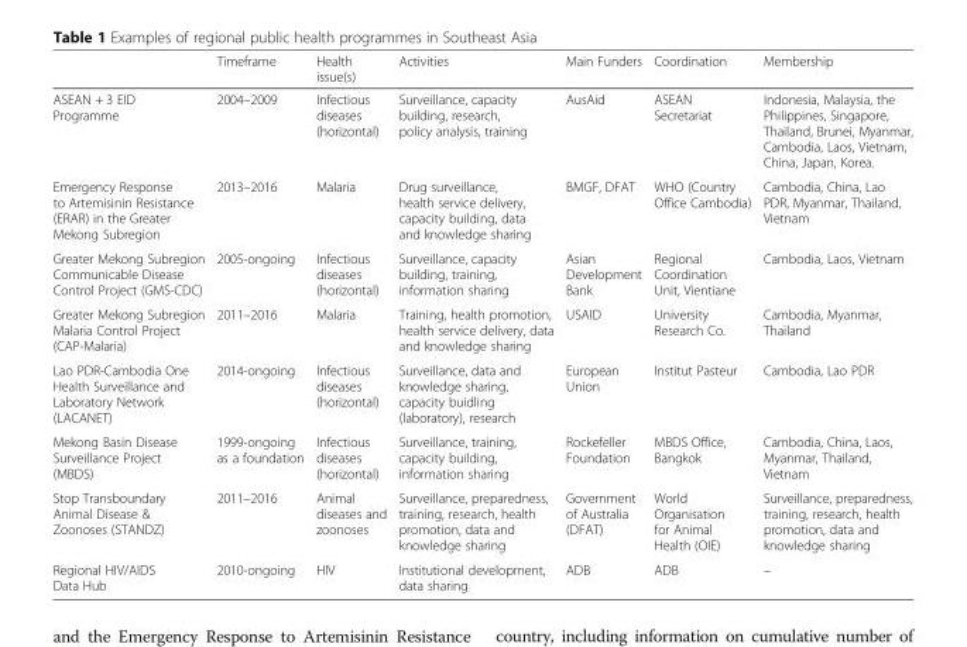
<table><thead><tr><td></td><td>Timeframe</td><td>Health issue(s)</td><td>Activities</td><td>Main Funders</td><td>Coordination</td><td>Membership</td></tr></thead><tbody><tr><td>ASEAN + 3 EID Programme</td><td>2004–2009</td><td>Infectious diseases (horizontal)</td><td>Surveillance, capacity building, research, policy analysis, training</td><td>AusAid</td><td>ASEAN Secretariat</td><td>Indonesia, Malaysia, the Philippines, Singapore, Thailand, Brunei, Myanmar, Cambodia, Laos, Vietnam, China, Japan, Korea.</td></tr><tr><td>Emergency Response to Artemisinin Resistance (ERAR) in the Greater Mekong Subregion</td><td>2013–2016</td><td>Malaria</td><td>Drug surveillance, health service delivery, capacity building, data and knowledge sharing</td><td>BMGF, DFAT</td><td>WHO (Country Office Cambodia)</td><td>Cambodia, China, Lao PDR, Myanmar, Thailand, Vietnam</td></tr><tr><td>Greater Mekong Subregion Communicable Disease Control Project (GMS-CDC)</td><td>2005-ongoing</td><td>Infectious diseases (horizontal)</td><td>Surveillance, capacity building, training, information sharing</td><td>Asian Development Bank</td><td>Regional Coordination Unit, Vientiane</td><td>Cambodia, Laos, Vietnam</td></tr><tr><td>Greater Mekong Subregion Malaria Control Project (CAP-Malaria)</td><td>2011–2016</td><td>Malaria</td><td>Training, health promotion, health service delivery, data and knowledge sharing</td><td>USAID</td><td>University Research Co.</td><td>Cambodia, Myanmar, Thailand</td></tr><tr><td>Lao PDR-Cambodia One Health Surveillance and Laboratory Network (LACANET)</td><td>2014-ongoing</td><td>Infectious diseases (horizontal)</td><td>Surveillance, data and knowledge sharing, capacity buidling (laboratory), research</td><td>European Union</td><td>Institut Pasteur</td><td>Cambodia, Lao PDR</td></tr><tr><td>Mekong Basin Disease Surveillance Project (MBDS)</td><td>1999-ongoing as a foundation</td><td>Infectious diseases (horizontal)</td><td>Surveillance, training, capacity building, information sharing</td><td>Rockefeller Foundation</td><td>MBDS Office, Bangkok</td><td>Cambodia, China, Laos, Myanmar, Thailand, Vietnam</td></tr><tr><td>Stop Transboundary Animal Disease &amp; Zoonoses (STANDZ)</td><td>2011–2016</td><td>Animal diseases and zoonoses</td><td>Surveillance, preparedness, training, research, health promotion, data and knowledge sharing</td><td>Government of Australia (DFAT)</td><td>World Organisation for Animal Health (OIE)</td><td>Surveillance, preparedness, training, research, health promotion, data and knowledge sharing</td></tr><tr><td>Regional HIV/AIDS Data Hub</td><td>2010-ongoing</td><td>HIV</td><td>Institutional development, data sharing</td><td>ADB</td><td>ADB</td><td>–</td></tr></tbody></table>